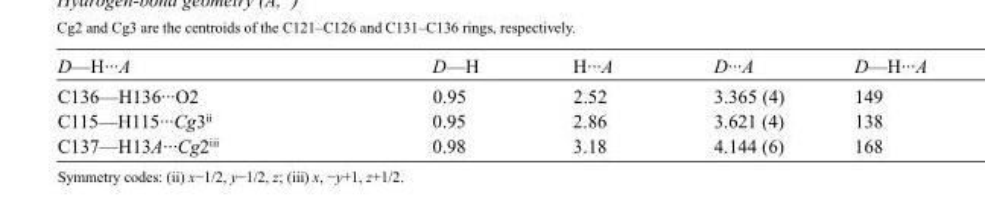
<table><tbody><tr><td>D—H···A</td><td>D—H</td><td>H···A</td><td>D···A</td><td>D—H···A</td></tr><tr><td>C136—H136···O2</td><td>0.95</td><td>2.52</td><td>3.365 (4)</td><td>149</td></tr><tr><td>C115—H115···Cg3<sup>ii</sup></td><td>0.95</td><td>2.86</td><td>3.621 (4)</td><td>138</td></tr><tr><td>C137—H13A···Cg2<sup>iii</sup></td><td>0.98</td><td>3.18</td><td>4.144 (6)</td><td>168</td></tr></tbody></table>